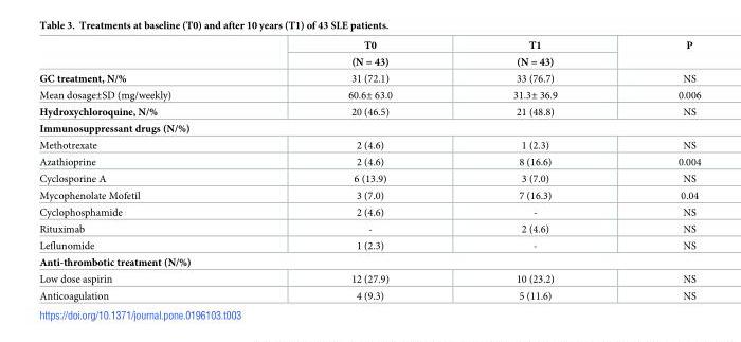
<table><thead><tr><td rowspan="2"></td><td rowspan="2">T0 (N = 43)</td><td rowspan="2">T1 (N = 43)</td><td rowspan="2">P</td></tr><tr></tr></thead><tbody><tr><td>GC treatment, N/%</td><td>31 (72.1)</td><td>33 (76.7)</td><td>NS</td></tr><tr><td>Mean dosage±SD (mg/weekly)</td><td>60.6± 63.0</td><td>31.3± 36.9</td><td>0.006</td></tr><tr><td>Hydroxychloroquine, N/%</td><td>20 (46.5)</td><td>21 (48.8)</td><td>NS</td></tr><tr><td colspan="4">Immunosuppressant drugs (N/%)</td></tr><tr><td>Methotrexate</td><td>2 (4.6)</td><td>1 (2.3)</td><td>NS</td></tr><tr><td>Azathioprine</td><td>2 (4.6)</td><td>8 (16.6)</td><td>0.004</td></tr><tr><td>Cyclosporine A</td><td>6 (13.9)</td><td>3 (7.0)</td><td>NS</td></tr><tr><td>Mycophenolate Mofetil</td><td>3 (7.0)</td><td>7 (16.3)</td><td>0.04</td></tr><tr><td>Cyclophosphamide</td><td>2 (4.6)</td><td>-</td><td>NS</td></tr><tr><td>Rituximab</td><td>-</td><td>2 (4.6)</td><td>NS</td></tr><tr><td>Leflunomide</td><td>1 (2.3)</td><td>-</td><td>NS</td></tr><tr><td colspan="4">Anti-thrombotic treatment (N/%)</td></tr><tr><td>Low dose aspirin</td><td>12 (27.9)</td><td>10 (23.2)</td><td>NS</td></tr><tr><td>Anticoagulation</td><td>4 (9.3)</td><td>5 (11.6)</td><td>NS</td></tr></tbody></table>